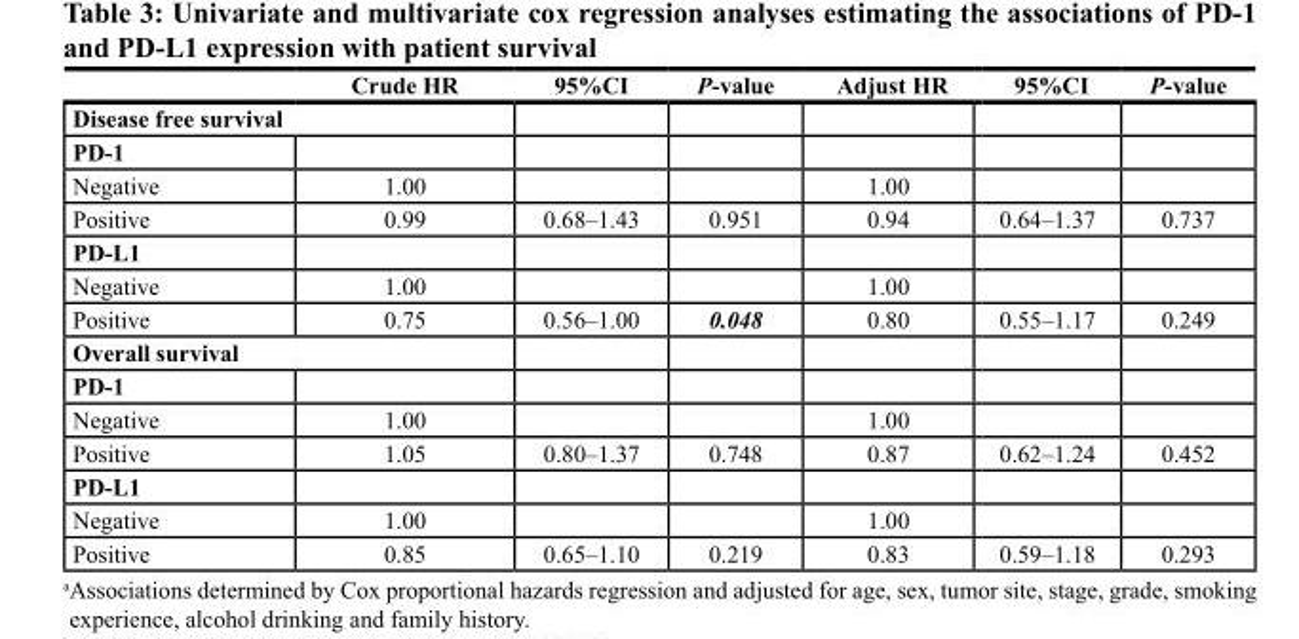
<table><thead><tr><td></td><td>Crude HR</td><td>95%CI</td><td>P-value</td><td>Adjust HR</td><td>95%CI</td><td>P-value</td></tr></thead><tbody><tr><td colspan="7">Disease free survival</td></tr><tr><td colspan="7">PD-1</td></tr><tr><td>Negative</td><td>1.00</td><td></td><td></td><td>1.00</td><td></td><td></td></tr><tr><td>Positive</td><td>0.99</td><td>0.68–1.43</td><td>0.951</td><td>0.94</td><td>0.64–1.37</td><td>0.737</td></tr><tr><td colspan="7">PD-L1</td></tr><tr><td>Negative</td><td>1.00</td><td></td><td></td><td>1.00</td><td></td><td></td></tr><tr><td>Positive</td><td>0.75</td><td>0.56–1.00</td><td>0.048</td><td>0.80</td><td>0.55–1.17</td><td>0.249</td></tr><tr><td colspan="7">Overall survival</td></tr><tr><td colspan="7">PD-1</td></tr><tr><td>Negative</td><td>1.00</td><td></td><td></td><td>1.00</td><td></td><td></td></tr><tr><td>Positive</td><td>1.05</td><td>0.80–1.37</td><td>0.748</td><td>0.87</td><td>0.62–1.24</td><td>0.452</td></tr><tr><td colspan="7">PD-L1</td></tr><tr><td>Negative</td><td>1.00</td><td></td><td></td><td>1.00</td><td></td><td></td></tr><tr><td>Positive</td><td>0.85</td><td>0.65–1.10</td><td>0.219</td><td>0.83</td><td>0.59–1.18</td><td>0.293</td></tr></tbody></table>